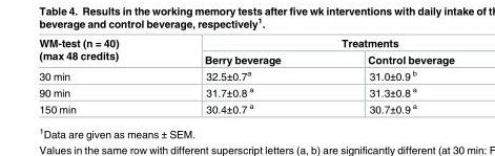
<table><thead><tr><td rowspan="2">WM-test (n = 40) (max 48 credits)</td><td colspan="2">Treatments</td></tr><tr><td>Berry beverage</td><td>Control beverage</td></tr></thead><tbody><tr><td>30 min</td><td>32.5±0.7<sup>a</sup></td><td>31.0±0.9 <sup>b</sup></td></tr><tr><td>90 min</td><td>31.7±0.8 <sup>a</sup></td><td>31.3±0.8 <sup>a</sup></td></tr><tr><td>150 min</td><td>30.4±0.7 <sup>a</sup></td><td>30.7±0.9 <sup>a</sup></td></tr></tbody></table>